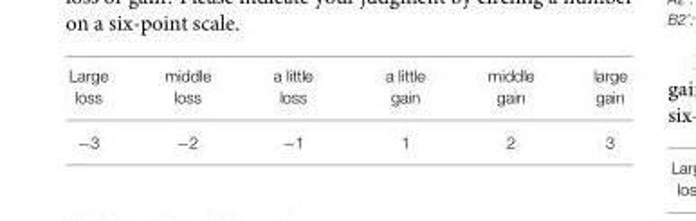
<table><thead><tr><td>Large loss</td><td>middle loss</td><td>a little loss</td><td>a little gain</td><td>middle gain</td><td>large gain</td></tr></thead><tbody><tr><td>−3</td><td>−2</td><td>−1</td><td>1</td><td>2</td><td>3</td></tr></tbody></table>